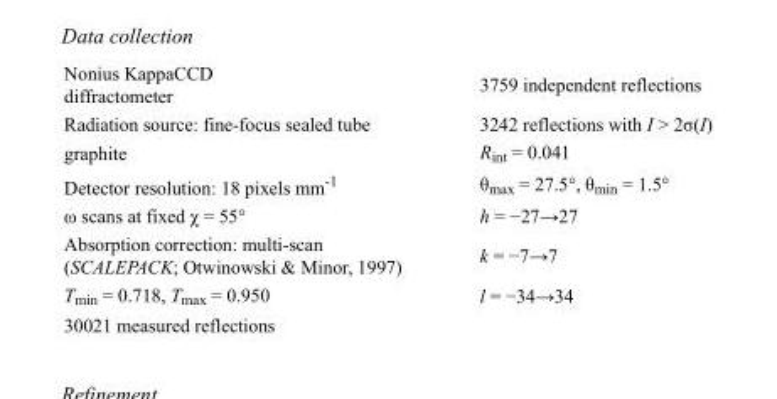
<table><tbody><tr><td>Nonius KappaCCD diffractometer</td><td>3759 independent reflections</td></tr><tr><td>Radiation source: fine-focus sealed tube</td><td>3242 reflections with I &gt; 2σ(I)</td></tr><tr><td>graphite</td><td>R<sub>int</sub> = 0.041</td></tr><tr><td>Detector resolution: 18 pixels mm<sup>-1</sup></td><td>θ<sub>max</sub> = 27.5°, θ<sub>min</sub> = 1.5°</td></tr><tr><td>ω scans at fixed χ = 55°</td><td>h = −27→27</td></tr><tr><td>Absorption correction: multi-scan (SCALEPACK; Otwinowski &amp; Minor, 1997)</td><td>k = −7→7</td></tr><tr><td>T<sub>min</sub> = 0.718, T<sub>max</sub> = 0.950</td><td>l = −34→34</td></tr><tr><td>30021 measured reflections</td><td></td></tr></tbody></table>